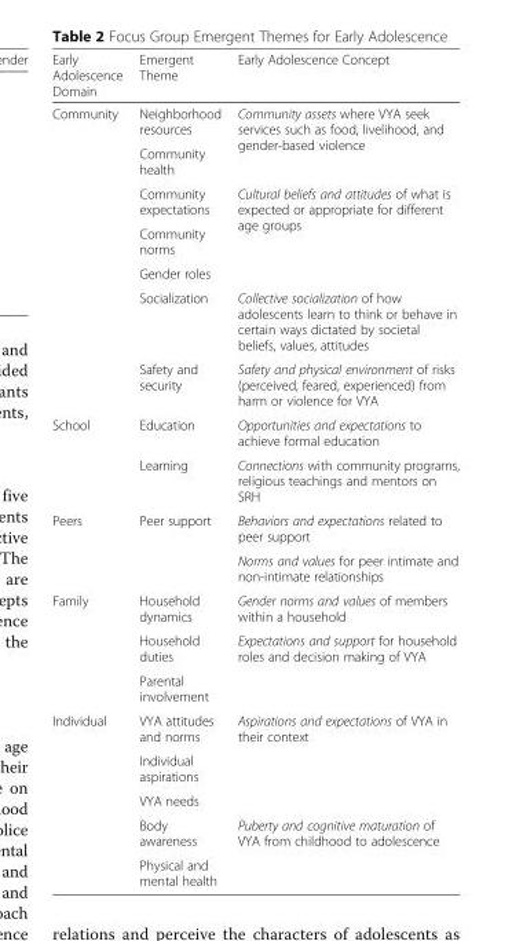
<table><thead><tr><td>Early Adolescence Domain</td><td>Emergent Theme</td><td>Early Adolescence Concept</td></tr></thead><tbody><tr><td rowspan="7">Community</td><td>Neighborhood resources</td><td rowspan="2">Community assets where VYA seek services such as food, livelihood, and gender-based violence</td></tr><tr><td>Community health</td></tr><tr><td>Community expectations</td><td rowspan="3">Cultural beliefs and attitudes of what is expected or appropriate for different age groups</td></tr><tr><td>Community norms</td></tr><tr><td>Gender roles</td></tr><tr><td>Socialization</td><td>Collective socialization of how adolescents learn to think or behave in certain ways dictated by societal beliefs, values, attitudes</td></tr><tr><td>Safety and security</td><td>Safety and physical environment of risks (perceived, feared, experienced) from harm or violence for VYA</td></tr><tr><td rowspan="2">School</td><td>Education</td><td>Opportunities and expectations to achieve formal education</td></tr><tr><td>Learning</td><td>Connections with community programs, religious teachings and mentors on SRH</td></tr><tr><td rowspan="2">Peers</td><td rowspan="2">Peer support</td><td>Behaviors and expectations related to peer support</td></tr><tr><td>Norms and values for peer intimate and non-intimate relationships</td></tr><tr><td rowspan="3">Family</td><td>Household dynamics</td><td>Gender norms and values of members within a household</td></tr><tr><td>Household duties</td><td rowspan="2">Expectations and support for household roles and decision making of VYA</td></tr><tr><td>Parental involvement</td></tr><tr><td rowspan="5">Individual</td><td>VYA attitudes and norms</td><td rowspan="3">Aspirations and expectations of VYA in their context</td></tr><tr><td>Individual aspirations</td></tr><tr><td>VYA needs</td></tr><tr><td>Body awareness</td><td rowspan="2">Puberty and cognitive maturation of VYA from childhood to adolescence</td></tr><tr><td>Physical and mental health</td></tr></tbody></table>